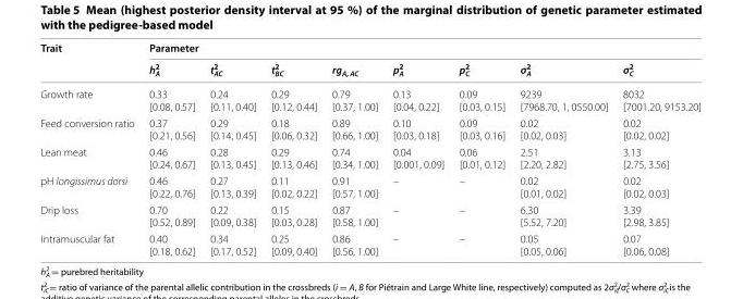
<table><thead><tr><td rowspan="2">Trait</td><td colspan="8">Parameter</td></tr><tr><td>h<sub>A</sub> <sup>2</sup></td><td>t<sub>AC</sub> <sup>2</sup></td><td>t<sub>BC</sub> <sup>2</sup></td><td>rg<sub>A, AC</sub></td><td>p<sub>A</sub> <sup>2</sup></td><td>p<sub>C</sub> <sup>2</sup></td><td>σ<sub>A</sub> <sup>2</sup></td><td>σ<sub>C</sub> <sup>2</sup></td></tr></thead><tbody><tr><td>Growth rate</td><td>0.33 [0.08, 0.57]</td><td>0.24 [0.11, 0.40]</td><td>0.29 [0.12, 0.44]</td><td>0.79 [0.37, 1.00]</td><td>0.13 [0.04, 0.22]</td><td>0.09 [0.03, 0.15]</td><td>9239 [7968.70, 1, 0550.00]</td><td>8032 [7001.20, 9153.20]</td></tr><tr><td>Feed conversion ratio</td><td>0.37 [0.21, 0.56]</td><td>0.29 [0.14, 0.45]</td><td>0.18 [0.06, 0.32]</td><td>0.89 [0.66, 1.00]</td><td>0.10 [0.03, 0.18]</td><td>0.09 [0.03, 0.16]</td><td>0.02 [0.02, 0.03]</td><td>0.02 [0.02, 0.02]</td></tr><tr><td>Lean meat</td><td>0.46 [0.24, 0.67]</td><td>0.28 [0.13, 0.45]</td><td>0.29 [0.13, 0.46]</td><td>0.74 [0.34, 1.00]</td><td>0.04 [0.001, 0.09]</td><td>0.06 [0.01, 0.12]</td><td>2.51 [2.20, 2.82]</td><td>3.13 [2.75, 3.56]</td></tr><tr><td>pH longissimus dorsi</td><td>0.46 [0.22, 0.76]</td><td>0.27 [0.13, 0.39]</td><td>0.11 [0.02, 0.22]</td><td>0.91 [0.57, 1.00]</td><td>–</td><td>–</td><td>0.02 [0.01, 0.02]</td><td>0.02 [0.02, 0.03]</td></tr><tr><td>Drip loss</td><td>0.70 [0.52, 0.89]</td><td>0.22 [0.09, 0.38]</td><td>0.15 [0.03, 0.28]</td><td>0.87 [0.58, 1.00]</td><td>–</td><td>–</td><td>6.30 [5.52, 7.20]</td><td>3.39 [2.98, 3.85]</td></tr><tr><td>Intramuscular fat</td><td>0.40 [0.18, 0.62]</td><td>0.34 [0.17, 0.52]</td><td>0.25 [0.09, 0.40]</td><td>0.86 [0.56, 1.00]</td><td>–</td><td>–</td><td>0.05 [0.05, 0.06]</td><td>0.07 [0.06, 0.08]</td></tr></tbody></table>